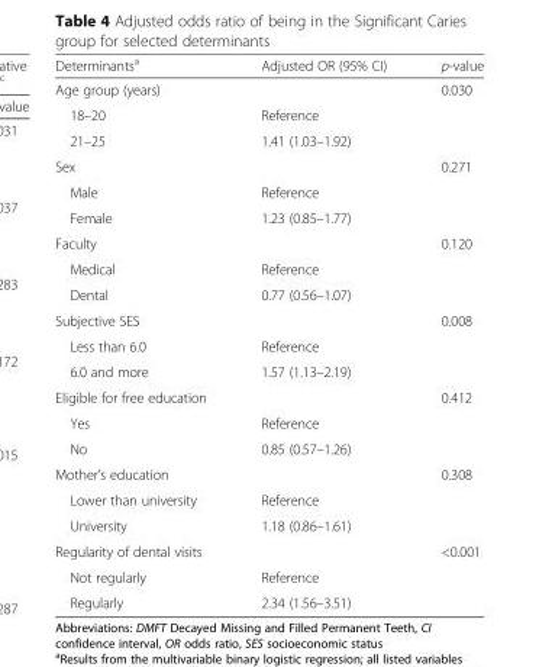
<table><thead><tr><td>Determinants<sup>a</sup></td><td>Adjusted OR (95% CI)</td><td>p-value</td></tr></thead><tbody><tr><td>Age group (years)</td><td></td><td>0.030</td></tr><tr><td>18–20</td><td>Reference</td><td></td></tr><tr><td>21–25</td><td>1.41 (1.03–1.92)</td><td></td></tr><tr><td>Sex</td><td></td><td>0.271</td></tr><tr><td>Male</td><td>Reference</td><td></td></tr><tr><td>Female</td><td>1.23 (0.85–1.77)</td><td></td></tr><tr><td>Faculty</td><td></td><td>0.120</td></tr><tr><td>Medical</td><td>Reference</td><td></td></tr><tr><td>Dental</td><td>0.77 (0.56–1.07)</td><td></td></tr><tr><td>Subjective SES</td><td></td><td>0.008</td></tr><tr><td>Less than 6.0</td><td>Reference</td><td></td></tr><tr><td>6.0 and more</td><td>1.57 (1.13–2.19)</td><td></td></tr><tr><td>Eligible for free education</td><td></td><td>0.412</td></tr><tr><td>Yes</td><td>Reference</td><td></td></tr><tr><td>No</td><td>0.85 (0.57–1.26)</td><td></td></tr><tr><td>Mother’s education</td><td></td><td>0.308</td></tr><tr><td>Lower than university</td><td>Reference</td><td></td></tr><tr><td>University</td><td>1.18 (0.86–1.61)</td><td></td></tr><tr><td>Regularity of dental visits</td><td></td><td>&lt;0.001</td></tr><tr><td>Not regularly</td><td>Reference</td><td></td></tr><tr><td>Regularly</td><td>2.34 (1.56–3.51)</td><td></td></tr></tbody></table>